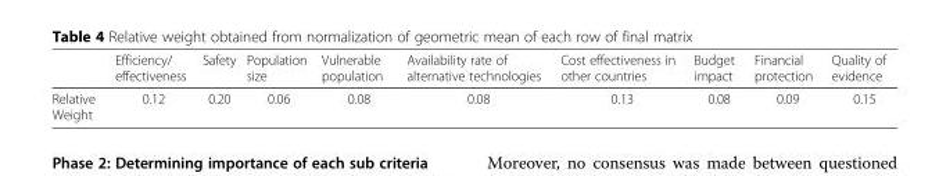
<table><thead><tr><td></td><td>Efficiency/ effectiveness</td><td>Safety</td><td>Population size</td><td>Vulnerable population</td><td>Availability rate of alternative technologies</td><td>Cost effectiveness in other countries</td><td>Budget impact</td><td>Financial protection</td><td>Quality of evidence</td></tr></thead><tbody><tr><td>Relative Weight</td><td>0.12</td><td>0.20</td><td>0.06</td><td>0.08</td><td>0.08</td><td>0.13</td><td>0.08</td><td>0.09</td><td>0.15</td></tr></tbody></table>